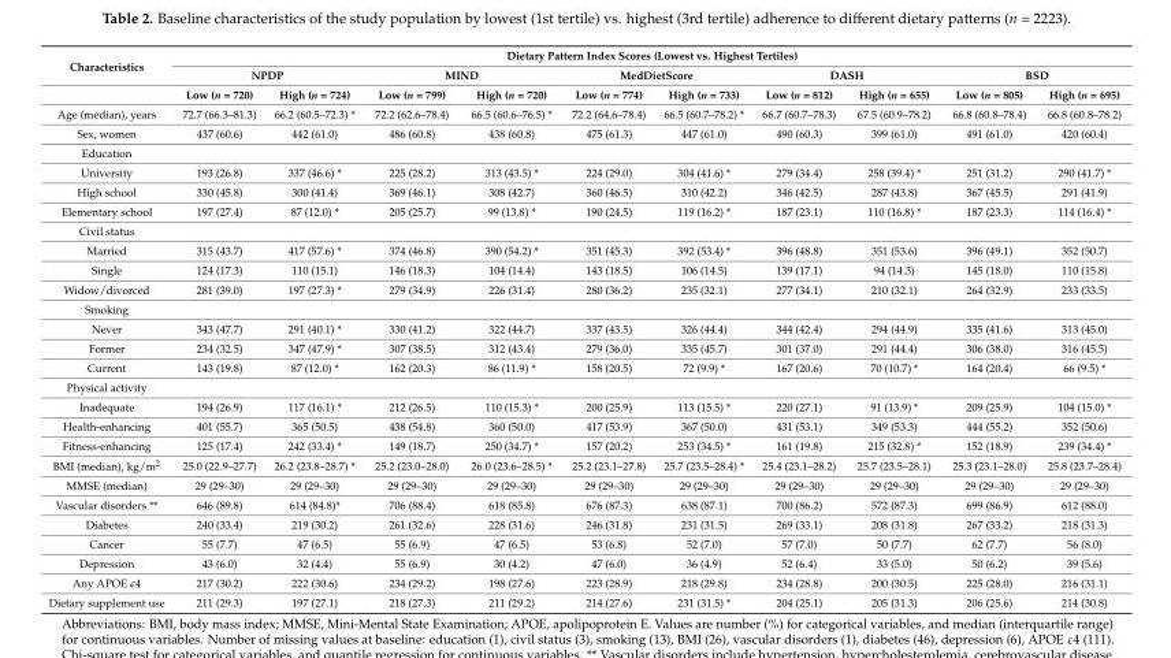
<table><thead><tr><td rowspan="3">Characteristics</td><td colspan="10">Dietary Pattern Index Scores (Lowest vs. Highest Tertiles)</td></tr><tr><td colspan="2">NPDP</td><td colspan="2">MIND</td><td colspan="2">MedDietScore</td><td colspan="2">DASH</td><td colspan="2">BSD</td></tr><tr><td>Low (n = 720)</td><td>High (n = 724)</td><td>Low (n = 799)</td><td>High (n = 720)</td><td>Low (n = 774)</td><td>High (n = 733)</td><td>Low (n = 812)</td><td>High (n = 655)</td><td>Low (n = 805)</td><td>High (n = 695)</td></tr></thead><tbody><tr><td>Age (median), years</td><td>72.7 (66.3–81.3)</td><td>66.2 (60.5–72.3) *</td><td>72.2 (62.6–78.4)</td><td>66.5 (60.6–76.5) *</td><td>72.2 (64.6–78.4)</td><td>66.5 (60.7–78.2) *</td><td>66.7 (60.7–78.3)</td><td>67.5 (60.9–78.2)</td><td>66.8 (60.8–78.4)</td><td>66.8 (60.8–78.2)</td></tr><tr><td>Sex, women</td><td>437 (60.6)</td><td>442 (61.0)</td><td>486 (60.8)</td><td>438 (60.8)</td><td>475 (61.3)</td><td>447 (61.0)</td><td>490 (60.3)</td><td>399 (61.0)</td><td>491 (61.0)</td><td>420 (60.4)</td></tr><tr><td colspan="11">Education</td></tr><tr><td>University</td><td>193 (26.8)</td><td>337 (46.6) *</td><td>225 (28.2)</td><td>313 (43.5) *</td><td>224 (29.0)</td><td>304 (41.6) *</td><td>279 (34.4)</td><td>258 (39.4) *</td><td>251 (31.2)</td><td>290 (41.7) *</td></tr><tr><td>High school</td><td>330 (45.8)</td><td>300 (41.4)</td><td>369 (46.1)</td><td>308 (42.7)</td><td>360 (46.5)</td><td>310 (42.2)</td><td>346 (42.5)</td><td>287 (43.8)</td><td>367 (45.5)</td><td>291 (41.9)</td></tr><tr><td>Elementary school</td><td>197 (27.4)</td><td>87 (12.0) *</td><td>205 (25.7)</td><td>99 (13.8) *</td><td>190 (24.5)</td><td>119 (16.2) *</td><td>187 (23.1)</td><td>110 (16.8) *</td><td>187 (23.3)</td><td>114 (16.4) *</td></tr><tr><td colspan="11">Civil status</td></tr><tr><td>Married</td><td>315 (43.7)</td><td>417 (57.6) *</td><td>374 (46.8)</td><td>390 (54.2) *</td><td>351 (45.3)</td><td>392 (53.4) *</td><td>396 (48.8)</td><td>351 (53.6)</td><td>396 (49.1)</td><td>352 (50.7)</td></tr><tr><td>Single</td><td>124 (17.3)</td><td>110 (15.1)</td><td>146 (18.3)</td><td>104 (14.4)</td><td>143 (18.5)</td><td>106 (14.5)</td><td>139 (17.1)</td><td>94 (14.3)</td><td>145 (18.0)</td><td>110 (15.8)</td></tr><tr><td>Widow/divorced</td><td>281 (39.0)</td><td>197 (27.3) *</td><td>279 (34.9)</td><td>226 (31.4)</td><td>280 (36.2)</td><td>235 (32.1)</td><td>277 (34.1)</td><td>210 (32.1)</td><td>264 (32.9)</td><td>233 (33.5)</td></tr><tr><td colspan="11">Smoking</td></tr><tr><td>Never</td><td>343 (47.7)</td><td>291 (40.1) *</td><td>330 (41.2)</td><td>322 (44.7)</td><td>337 (43.5)</td><td>326 (44.4)</td><td>344 (42.4)</td><td>294 (44.9)</td><td>335 (41.6)</td><td>313 (45.0)</td></tr><tr><td>Former</td><td>234 (32.5)</td><td>347 (47.9) *</td><td>307 (38.5)</td><td>312 (43.4)</td><td>279 (36.0)</td><td>335 (45.7)</td><td>301 (37.0)</td><td>291 (44.4)</td><td>306 (38.0)</td><td>316 (45.5)</td></tr><tr><td>Current</td><td>143 (19.8)</td><td>87 (12.0) *</td><td>162 (20.3)</td><td>86 (11.9) *</td><td>158 (20.5)</td><td>72 (9.9) *</td><td>167 (20.6)</td><td>70 (10.7) *</td><td>164 (20.4)</td><td>66 (9.5) *</td></tr><tr><td colspan="11">Physical activity</td></tr><tr><td>Inadequate</td><td>194 (26.9)</td><td>117 (16.1) *</td><td>212 (26.5)</td><td>110 (15.3) *</td><td>200 (25.9)</td><td>113 (15.5) *</td><td>220 (27.1)</td><td>91 (13.9) *</td><td>209 (25.9)</td><td>104 (15.0) *</td></tr><tr><td>Health-enhancing</td><td>401 (55.7)</td><td>365 (50.5)</td><td>438 (54.8)</td><td>360 (50.0)</td><td>417 (53.9)</td><td>367 (50.0)</td><td>431 (53.1)</td><td>349 (53.3)</td><td>444 (55.2)</td><td>352 (50.6)</td></tr><tr><td>Fitness-enhancing</td><td>125 (17.4)</td><td>242 (33.4) *</td><td>149 (18.7)</td><td>250 (34.7) *</td><td>157 (20.2)</td><td>253 (34.5) *</td><td>161 (19.8)</td><td>215 (32.8) *</td><td>152 (18.9)</td><td>239 (34.4) *</td></tr><tr><td>BMI (median), kg/m<sup>2</sup></td><td>25.0 (22.9–27.7)</td><td>26.2 (23.8–28.7) *</td><td>25.2 (23.0–28.0)</td><td>26.0 (23.6–28.5) *</td><td>25.2 (23.1–27.8)</td><td>25.7 (23.5–28.4) *</td><td>25.4 (23.1–28.2)</td><td>25.7 (23.5–28.1)</td><td>25.3 (23.1–28.0)</td><td>25.8 (23.7–28.4)</td></tr><tr><td>MMSE (median)</td><td>29 (29–30)</td><td>29 (29–30)</td><td>29 (29–30)</td><td>29 (29–30)</td><td>29 (29–30)</td><td>29 (29–30)</td><td>29 (29–30)</td><td>29 (29–30)</td><td>29 (29–30)</td><td>29 (29–30)</td></tr><tr><td>Vascular disorders **</td><td>646 (89.8)</td><td>614 (84.8)*</td><td>706 (88.4)</td><td>618 (85.8)</td><td>676 (87.3)</td><td>638 (87.1)</td><td>700 (86.2)</td><td>572 (87.3)</td><td>699 (86.9)</td><td>612 (88.0)</td></tr><tr><td>Diabetes</td><td>240 (33.4)</td><td>219 (30.2)</td><td>261 (32.6)</td><td>228 (31.6)</td><td>246 (31.8)</td><td>231 (31.5)</td><td>269 (33.1)</td><td>208 (31.8)</td><td>267 (33.2)</td><td>218 (31.3)</td></tr><tr><td>Cancer</td><td>55 (7.7)</td><td>47 (6.5)</td><td>55 (6.9)</td><td>47 (6.5)</td><td>53 (6.8)</td><td>52 (7.0)</td><td>57 (7.0)</td><td>50 (7.7)</td><td>62 (7.7)</td><td>56 (8.0)</td></tr><tr><td>Depression</td><td>43 (6.0)</td><td>32 (4.4)</td><td>55 (6.9)</td><td>30 (4.2)</td><td>47 (6.0)</td><td>36 (4.9)</td><td>52 (6.4)</td><td>33 (5.0)</td><td>50 (6.2)</td><td>39 (5.6)</td></tr><tr><td>Any APOE ϵ4</td><td>217 (30.2)</td><td>222 (30.6)</td><td>234 (29.2)</td><td>198 (27.6)</td><td>223 (28.9)</td><td>218 (29.8)</td><td>234 (28.8)</td><td>200 (30.5)</td><td>225 (28.0)</td><td>216 (31.1)</td></tr><tr><td>Dietary supplement use</td><td>211 (29.3)</td><td>197 (27.1)</td><td>218 (27.3)</td><td>211 (29.2)</td><td>214 (27.6)</td><td>231 (31.5) *</td><td>204 (25.1)</td><td>205 (31.3)</td><td>206 (25.6)</td><td>214 (30.8)</td></tr></tbody></table>